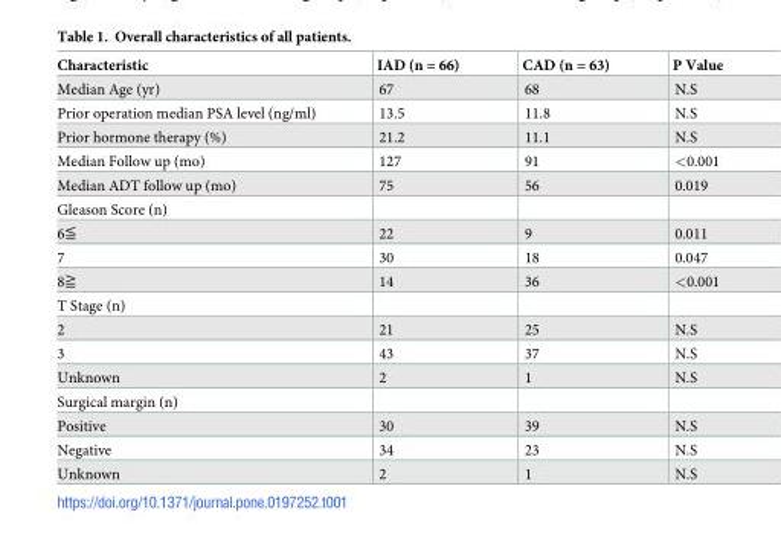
<table><thead><tr><td>Characteristic</td><td>IAD (n = 66)</td><td>CAD (n = 63)</td><td>P Value</td></tr></thead><tbody><tr><td>Median Age (yr)</td><td>67</td><td>68</td><td>N.S</td></tr><tr><td>Prior operation median PSA level (ng/ml)</td><td>13.5</td><td>11.8</td><td>N.S</td></tr><tr><td>Prior hormone therapy (%)</td><td>21.2</td><td>11.1</td><td>N.S</td></tr><tr><td>Median Follow up (mo)</td><td>127</td><td>91</td><td>&lt;0.001</td></tr><tr><td>Median ADT follow up (mo)</td><td>75</td><td>56</td><td>0.019</td></tr><tr><td colspan="4">Gleason Score (n)</td></tr><tr><td>6≦</td><td>22</td><td>9</td><td>0.011</td></tr><tr><td>7</td><td>30</td><td>18</td><td>0.047</td></tr><tr><td>8≧</td><td>14</td><td>36</td><td>&lt;0.001</td></tr><tr><td colspan="4">T Stage (n)</td></tr><tr><td>2</td><td>21</td><td>25</td><td>N.S</td></tr><tr><td>3</td><td>43</td><td>37</td><td>N.S</td></tr><tr><td>Unknown</td><td>2</td><td>1</td><td>N.S</td></tr><tr><td colspan="4">Surgical margin (n)</td></tr><tr><td>Positive</td><td>30</td><td>39</td><td>N.S</td></tr><tr><td>Negative</td><td>34</td><td>23</td><td>N.S</td></tr><tr><td>Unknown</td><td>2</td><td>1</td><td>N.S</td></tr></tbody></table>